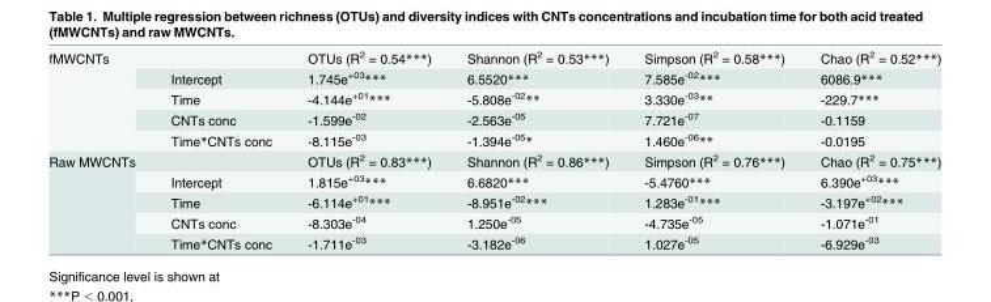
<table><tbody><tr><td rowspan="5">fMWCNTs</td><td></td><td>OTUs (R<sup>2</sup> = 0.54***)</td><td>Shannon (R<sup>2</sup> = 0.53***)</td><td>Simpson (R<sup>2</sup> = 0.58***)</td><td>Chao (R<sup>2</sup> = 0.52***)</td></tr><tr><td>Intercept</td><td>1.745e<sup>+03</sup>***</td><td>6.5520***</td><td>7.585e<sup>-02</sup>***</td><td>6086.9***</td></tr><tr><td>Time</td><td>-4.144e<sup>+01</sup>***</td><td>-5.808e<sup>-02</sup>**</td><td>3.330e<sup>-03</sup>**</td><td>-229.7***</td></tr><tr><td>CNTs conc</td><td>-1.599e<sup>-02</sup></td><td>-2.563e<sup>-05</sup></td><td>7.721e<sup>-07</sup></td><td>-0.1159</td></tr><tr><td>Time*CNTs conc</td><td>-8.115e<sup>-03</sup></td><td>-1.394e<sup>-05</sup>*</td><td>1.460e<sup>-06</sup>**</td><td>-0.0195</td></tr><tr><td rowspan="5">Raw MWCNTs</td><td></td><td>OTUs (R<sup>2</sup> = 0.83***)</td><td>Shannon (R<sup>2</sup> = 0.86***)</td><td>Simpson (R<sup>2</sup> = 0.76***)</td><td>Chao (R<sup>2</sup> = 0.75***)</td></tr><tr><td>Intercept</td><td>1.815e<sup>+03</sup>***</td><td>6.6820***</td><td>-5.4760***</td><td>6.390e<sup>+03</sup>***</td></tr><tr><td>Time</td><td>-6.114e<sup>+01</sup>***</td><td>-8.951e<sup>-02</sup>***</td><td>1.283e<sup>-01</sup>***</td><td>-3.197e<sup>+02</sup>***</td></tr><tr><td>CNTs conc</td><td>-8.303e<sup>-04</sup></td><td>1.250e<sup>-05</sup></td><td>-4.735e<sup>-05</sup></td><td>-1.071e<sup>-01</sup></td></tr><tr><td>Time*CNTs conc</td><td>-1.711e<sup>-03</sup></td><td>-3.182e<sup>-06</sup></td><td>1.027e<sup>-05</sup></td><td>-6.929e<sup>-03</sup></td></tr></tbody></table>